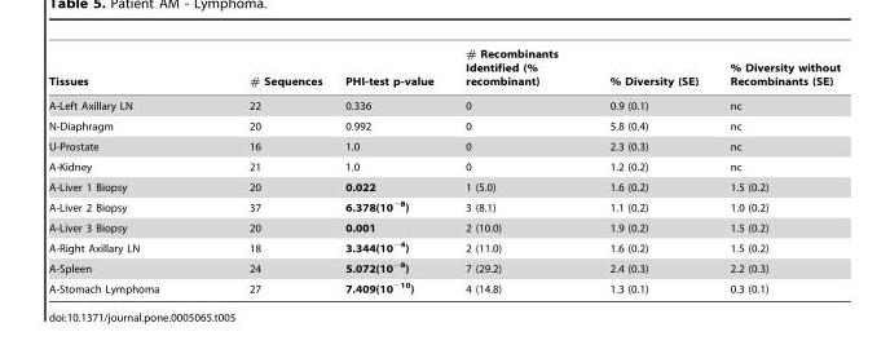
<table><thead><tr><td>Tissues</td><td># Sequences</td><td>PHI-test p-value</td><td># Recombinants Identified (% recombinant)</td><td>% Diversity (SE)</td><td>% Diversity without Recombinants (SE)</td></tr></thead><tbody><tr><td>A-Left Axillary LN</td><td>22</td><td>0.336</td><td>0</td><td>0.9 (0.1)</td><td>nc</td></tr><tr><td>N-Diaphragm</td><td>20</td><td>0.992</td><td>0</td><td>5.8 (0.4)</td><td>nc</td></tr><tr><td>U-Prostate</td><td>16</td><td>1.0</td><td>0</td><td>2.3 (0.3)</td><td>nc</td></tr><tr><td>A-Kidney</td><td>21</td><td>1.0</td><td>0</td><td>1.2 (0.2)</td><td>nc</td></tr><tr><td>A-Liver 1 Biopsy</td><td>20</td><td>0.022</td><td>1 (5.0)</td><td>1.6 (0.2)</td><td>1.5 (0.2)</td></tr><tr><td>A-Liver 2 Biopsy</td><td>37</td><td>6.378(10<sup>−8</sup>)</td><td>3 (8.1)</td><td>1.1 (0.2)</td><td>1.0 (0.2)</td></tr><tr><td>A-Liver 3 Biopsy</td><td>20</td><td>0.001</td><td>2 (10.0)</td><td>1.9 (0.2)</td><td>1.5 (0.2)</td></tr><tr><td>A-Right Axillary LN</td><td>18</td><td>3.344(10<sup>−4</sup>)</td><td>2 (11.0)</td><td>1.6 (0.2)</td><td>1.5 (0.2)</td></tr><tr><td>A-Spleen</td><td>24</td><td>5.072(10<sup>−8</sup>)</td><td>7 (29.2)</td><td>2.4 (0.3)</td><td>2.2 (0.3)</td></tr><tr><td>A-Stomach Lymphoma</td><td>27</td><td>7.409(10<sup>−10</sup>)</td><td>4 (14.8)</td><td>1.3 (0.1)</td><td>0.3 (0.1)</td></tr></tbody></table>